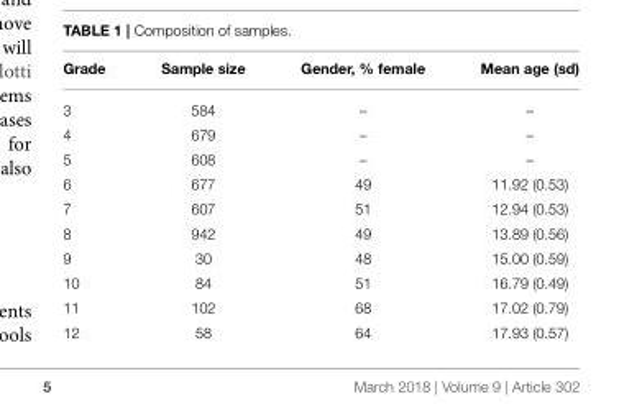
<table><thead><tr><td>Grade</td><td>Sample size</td><td>Gender, % female</td><td>Mean age (sd)</td></tr></thead><tbody><tr><td>3</td><td>584</td><td>–</td><td>–</td></tr><tr><td>4</td><td>679</td><td>–</td><td>–</td></tr><tr><td>5</td><td>608</td><td>–</td><td>–</td></tr><tr><td>6</td><td>677</td><td>49</td><td>11.92 (0.53)</td></tr><tr><td>7</td><td>607</td><td>51</td><td>12.94 (0.53)</td></tr><tr><td>8</td><td>942</td><td>49</td><td>13.89 (0.56)</td></tr><tr><td>9</td><td>30</td><td>48</td><td>15.00 (0.59)</td></tr><tr><td>10</td><td>84</td><td>51</td><td>16.79 (0.49)</td></tr><tr><td>11</td><td>102</td><td>68</td><td>17.02 (0.79)</td></tr><tr><td>12</td><td>58</td><td>64</td><td>17.93 (0.57)</td></tr></tbody></table>